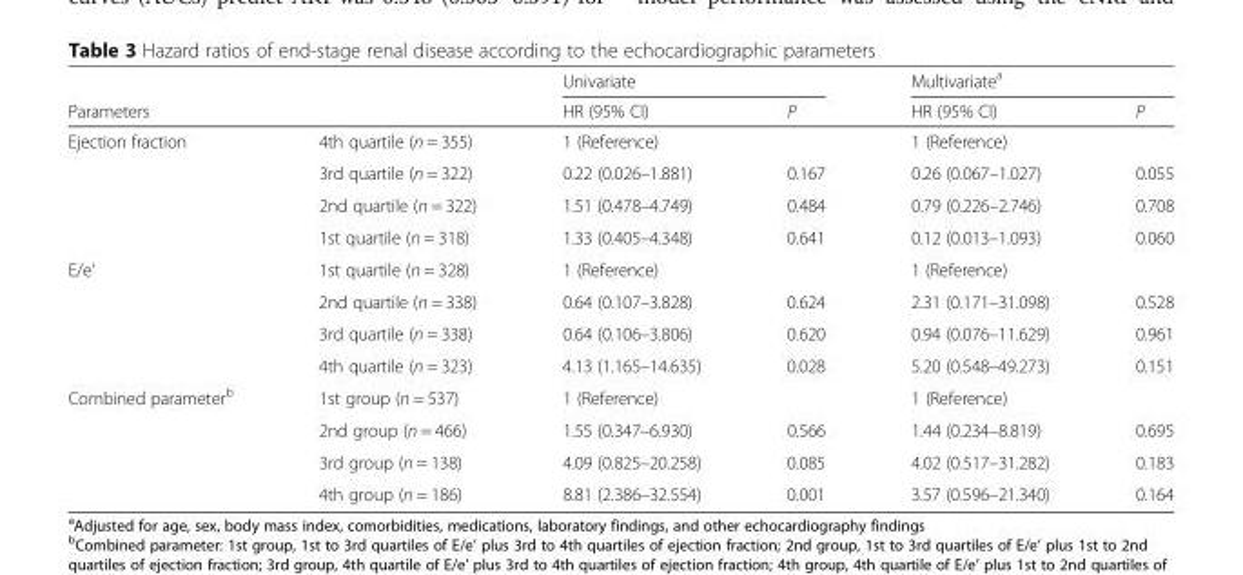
<table><thead><tr><td rowspan="2">Parameters</td><td rowspan="2"></td><td colspan="2">Univariate</td><td colspan="2">Multivariate<sup>a</sup></td></tr><tr><td>HR (95% CI)</td><td>P</td><td>HR (95% CI)</td><td>P</td></tr></thead><tbody><tr><td rowspan="4">Ejection fraction</td><td>4th quartile (n = 355)</td><td>1 (Reference)</td><td></td><td>1 (Reference)</td><td></td></tr><tr><td>3rd quartile (n = 322)</td><td>0.22 (0.026–1.881)</td><td>0.167</td><td>0.26 (0.067–1.027)</td><td>0.055</td></tr><tr><td>2nd quartile (n = 322)</td><td>1.51 (0.478–4.749)</td><td>0.484</td><td>0.79 (0.226–2.746)</td><td>0.708</td></tr><tr><td>1st quartile (n = 318)</td><td>1.33 (0.405–4.348)</td><td>0.641</td><td>0.12 (0.013–1.093)</td><td>0.060</td></tr><tr><td rowspan="4">E/e’</td><td>1st quartile (n = 328)</td><td>1 (Reference)</td><td></td><td>1 (Reference)</td><td></td></tr><tr><td>2nd quartile (n = 338)</td><td>0.64 (0.107–3.828)</td><td>0.624</td><td>2.31 (0.171–31.098)</td><td>0.528</td></tr><tr><td>3rd quartile (n = 338)</td><td>0.64 (0.106–3.806)</td><td>0.620</td><td>0.94 (0.076–11.629)</td><td>0.961</td></tr><tr><td>4th quartile (n = 323)</td><td>4.13 (1.165–14.635)</td><td>0.028</td><td>5.20 (0.548–49.273)</td><td>0.151</td></tr><tr><td rowspan="4">Combined parameter<sup>b</sup></td><td>1st group (n = 537)</td><td>1 (Reference)</td><td></td><td>1 (Reference)</td><td></td></tr><tr><td>2nd group (n = 466)</td><td>1.55 (0.347–6.930)</td><td>0.566</td><td>1.44 (0.234–8.819)</td><td>0.695</td></tr><tr><td>3rd group (n = 138)</td><td>4.09 (0.825–20.258)</td><td>0.085</td><td>4.02 (0.517–31.282)</td><td>0.183</td></tr><tr><td>4th group (n = 186)</td><td>8.81 (2.386–32.554)</td><td>0.001</td><td>3.57 (0.596–21.340)</td><td>0.164</td></tr></tbody></table>